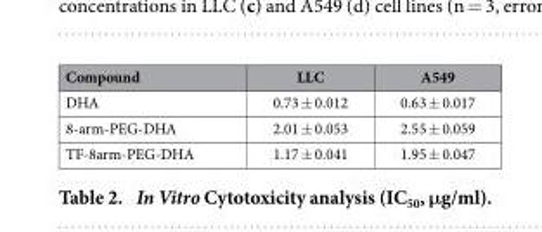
<table><thead><tr><td>Compound</td><td>LLC</td><td>A549</td></tr></thead><tbody><tr><td>DHA</td><td>0.73 ± 0.012</td><td>0.63 ± 0.017</td></tr><tr><td>8-arm-PEG-DHA</td><td>2.01 ± 0.053</td><td>2.55 ± 0.059</td></tr><tr><td>TF-8arm-PEG-DHA</td><td>1.17 ± 0.041</td><td>1.95 ± 0.047</td></tr></tbody></table>